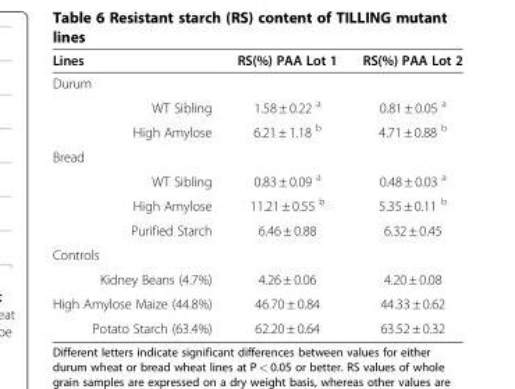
<table><thead><tr><td>Lines</td><td>RS(%) PAA Lot 1</td><td>RS(%) PAA Lot 2</td></tr></thead><tbody><tr><td colspan="3">Durum</td></tr><tr><td>WT Sibling</td><td>1.58 ± 0.22 <sup>a</sup></td><td>0.81 ± 0.05 <sup>a</sup></td></tr><tr><td>High Amylose</td><td>6.21 ± 1.18 <sup>b</sup></td><td>4.71 ± 0.88 <sup>b</sup></td></tr><tr><td colspan="3">Bread</td></tr><tr><td>WT Sibling</td><td>0.83 ± 0.09 <sup>a</sup></td><td>0.48 ± 0.03 <sup>a</sup></td></tr><tr><td>High Amylose</td><td>11.21 ± 0.55 <sup>b</sup></td><td>5.35 ± 0.11 <sup>b</sup></td></tr><tr><td>Purified Starch</td><td>6.46 ± 0.88</td><td>6.32 ± 0.45</td></tr><tr><td colspan="3">Controls</td></tr><tr><td>Kidney Beans (4.7%)</td><td>4.26 ± 0.06</td><td>4.20 ± 0.08</td></tr><tr><td>High Amylose Maize (44.8%)</td><td>46.70 ± 0.84</td><td>44.33 ± 0.62</td></tr><tr><td>Potato Starch (63.4%)</td><td>62.20 ± 0.64</td><td>63.52 ± 0.32</td></tr></tbody></table>